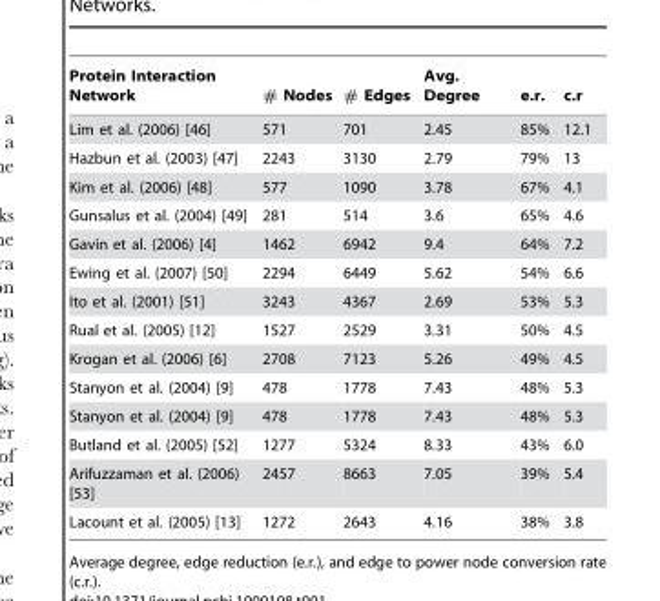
<table><thead><tr><td>Protein Interaction Network</td><td># Nodes</td><td># Edges</td><td>Avg. Degree</td><td>e.r.</td><td>c.r</td></tr></thead><tbody><tr><td>Lim et al. (2006) [46]</td><td>571</td><td>701</td><td>2.45</td><td>85%</td><td>12.1</td></tr><tr><td>Hazbun et al. (2003) [47]</td><td>2243</td><td>3130</td><td>2.79</td><td>79%</td><td>13</td></tr><tr><td>Kim et al. (2006) [48]</td><td>577</td><td>1090</td><td>3.78</td><td>67%</td><td>4.1</td></tr><tr><td>Gunsalus et al. (2004) [49]</td><td>281</td><td>514</td><td>3.6</td><td>65%</td><td>4.6</td></tr><tr><td>Gavin et al. (2006) [4]</td><td>1462</td><td>6942</td><td>9.4</td><td>64%</td><td>7.2</td></tr><tr><td>Ewing et al. (2007) [50]</td><td>2294</td><td>6449</td><td>5.62</td><td>54%</td><td>6.6</td></tr><tr><td>Ito et al. (2001) [51]</td><td>3243</td><td>4367</td><td>2.69</td><td>53%</td><td>5.3</td></tr><tr><td>Rual et al. (2005) [12]</td><td>1527</td><td>2529</td><td>3.31</td><td>50%</td><td>4.5</td></tr><tr><td>Krogan et al. (2006) [6]</td><td>2708</td><td>7123</td><td>5.26</td><td>49%</td><td>4.5</td></tr><tr><td>Stanyon et al. (2004) [9]</td><td>478</td><td>1778</td><td>7.43</td><td>48%</td><td>5.3</td></tr><tr><td>Stanyon et al. (2004) [9]</td><td>478</td><td>1778</td><td>7.43</td><td>48%</td><td>5.3</td></tr><tr><td>Butland et al. (2005) [52]</td><td>1277</td><td>5324</td><td>8.33</td><td>43%</td><td>6.0</td></tr><tr><td>Arifuzzaman et al. (2006) [53]</td><td>2457</td><td>8663</td><td>7.05</td><td>39%</td><td>5.4</td></tr><tr><td>Lacount et al. (2005) [13]</td><td>1272</td><td>2643</td><td>4.16</td><td>38%</td><td>3.8</td></tr></tbody></table>